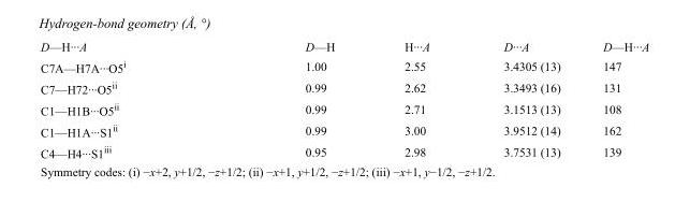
<table><tbody><tr><td>D—H···A</td><td>D—H</td><td>H···A</td><td>D···A</td><td>D—H···A</td></tr><tr><td>C7A—H7A···O5<sup>i</sup></td><td>1.00</td><td>2.55</td><td>3.4305 (13)</td><td>147</td></tr><tr><td>C7—H72···O5<sup>ii</sup></td><td>0.99</td><td>2.62</td><td>3.3493 (16)</td><td>131</td></tr><tr><td>C1—H1B···O5<sup>ii</sup></td><td>0.99</td><td>2.71</td><td>3.1513 (13)</td><td>108</td></tr><tr><td>C1—H1A···S1<sup>ii</sup></td><td>0.99</td><td>3.00</td><td>3.9512 (14)</td><td>162</td></tr><tr><td>C4—H4···S1<sup>iii</sup></td><td>0.95</td><td>2.98</td><td>3.7531 (13)</td><td>139</td></tr></tbody></table>